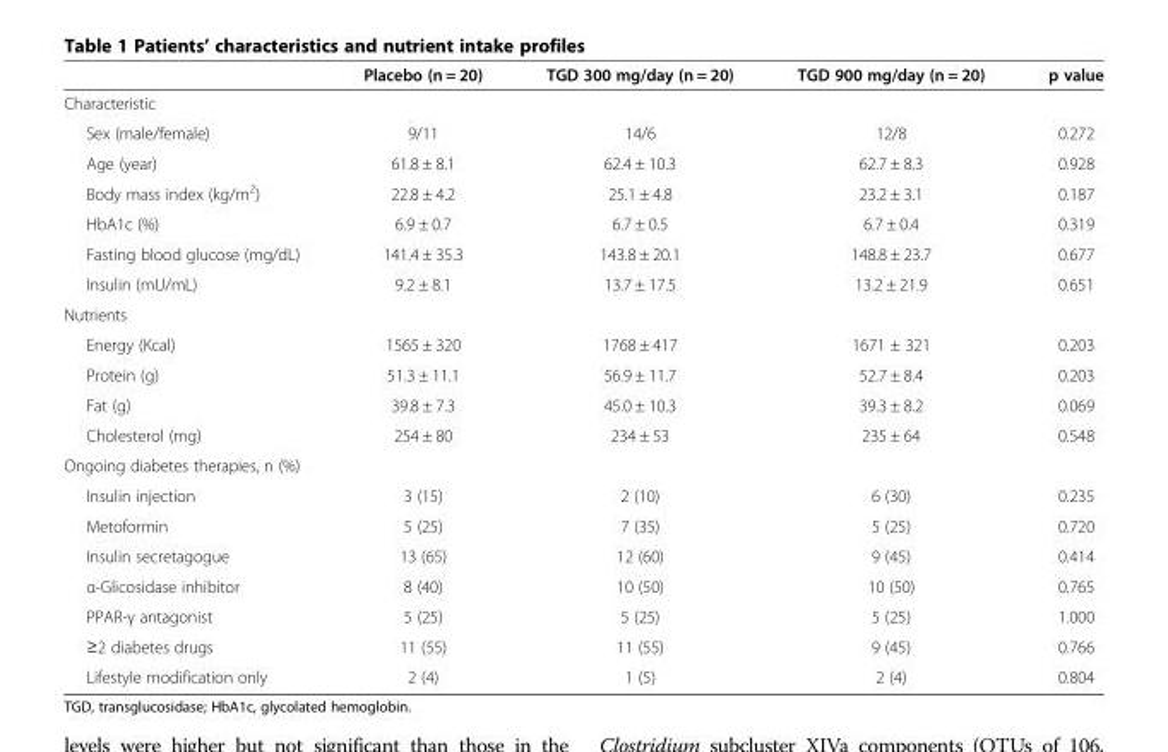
<table><thead><tr><td></td><td>Placebo (n = 20)</td><td>TGD 300 mg/day (n = 20)</td><td>TGD 900 mg/day (n = 20)</td><td>p value</td></tr></thead><tbody><tr><td colspan="5">Characteristic</td></tr><tr><td>Sex (male/female)</td><td>9/11</td><td>14/6</td><td>12/8</td><td>0.272</td></tr><tr><td>Age (year)</td><td>61.8 ± 8.1</td><td>62.4 ± 10.3</td><td>62.7 ± 8.3</td><td>0.928</td></tr><tr><td>Body mass index (kg/m<sup>2</sup>)</td><td>22.8 ± 4.2</td><td>25.1 ± 4.8</td><td>23.2 ± 3.1</td><td>0.187</td></tr><tr><td>HbA1c (%)</td><td>6.9 ± 0.7</td><td>6.7 ± 0.5</td><td>6.7 ± 0.4</td><td>0.319</td></tr><tr><td>Fasting blood glucose (mg/dL)</td><td>141.4 ± 35.3</td><td>143.8 ± 20.1</td><td>148.8 ± 23.7</td><td>0.677</td></tr><tr><td>Insulin (mU/mL)</td><td>9.2 ± 8.1</td><td>13.7 ± 17.5</td><td>13.2 ± 21.9</td><td>0.651</td></tr><tr><td colspan="5">Nutrients</td></tr><tr><td>Energy (Kcal)</td><td>1565 ± 320</td><td>1768 ± 417</td><td>1671 ± 321</td><td>0.203</td></tr><tr><td>Protein (g)</td><td>51.3 ± 11.1</td><td>56.9 ± 11.7</td><td>52.7 ± 8.4</td><td>0.203</td></tr><tr><td>Fat (g)</td><td>39.8 ± 7.3</td><td>45.0 ± 10.3</td><td>39.3 ± 8.2</td><td>0.069</td></tr><tr><td>Cholesterol (mg)</td><td>254 ± 80</td><td>234 ± 53</td><td>235 ± 64</td><td>0.548</td></tr><tr><td colspan="5">Ongoing diabetes therapies, n (%)</td></tr><tr><td>Insulin injection</td><td>3 (15)</td><td>2 (10)</td><td>6 (30)</td><td>0.235</td></tr><tr><td>Metoformin</td><td>5 (25)</td><td>7 (35)</td><td>5 (25)</td><td>0.720</td></tr><tr><td>Insulin secretagogue</td><td>13 (65)</td><td>12 (60)</td><td>9 (45)</td><td>0.414</td></tr><tr><td>α-Glicosidase inhibitor</td><td>8 (40)</td><td>10 (50)</td><td>10 (50)</td><td>0.765</td></tr><tr><td>PPAR-γ antagonist</td><td>5 (25)</td><td>5 (25)</td><td>5 (25)</td><td>1.000</td></tr><tr><td>≥2 diabetes drugs</td><td>11 (55)</td><td>11 (55)</td><td>9 (45)</td><td>0.766</td></tr><tr><td>Lifestyle modification only</td><td>2 (4)</td><td>1 (5)</td><td>2 (4)</td><td>0.804</td></tr></tbody></table>